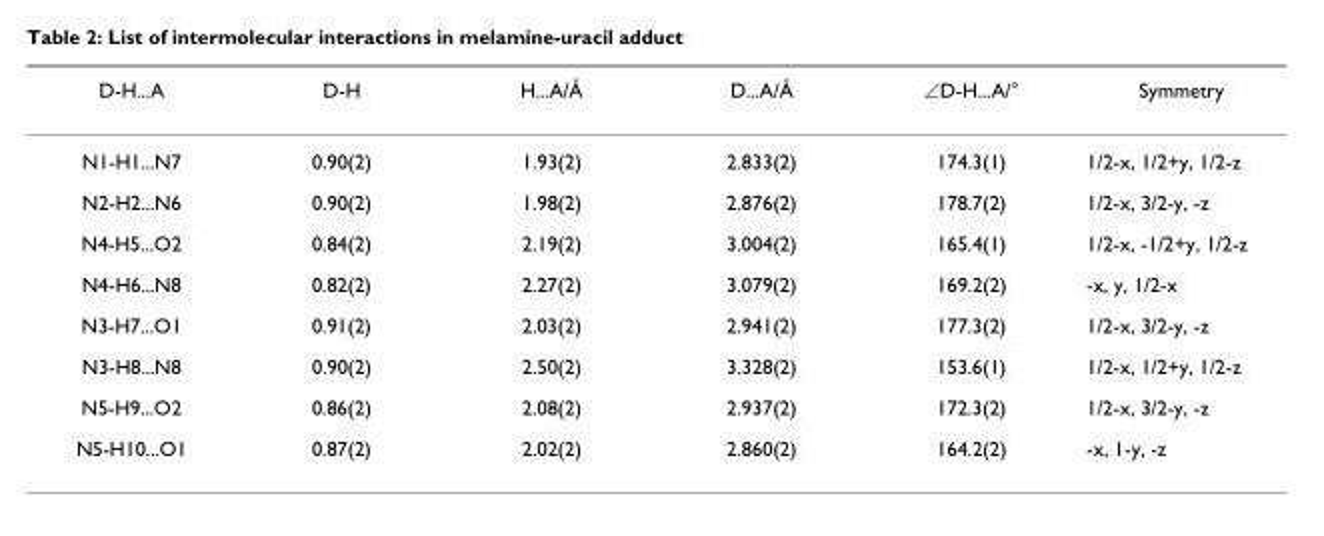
<table><thead><tr><td>D-H...A</td><td>D-H</td><td>H...A/Å</td><td>D...A/Å</td><td>∠D-H...A/°</td><td>Symmetry</td></tr></thead><tbody><tr><td>N1-H1...N7</td><td>0.90(2)</td><td>1.93(2)</td><td>2.833(2)</td><td>174.3(1)</td><td>1/2-x, 1/2+y, 1/2-z</td></tr><tr><td>N2-H2...N6</td><td>0.90(2)</td><td>1.98(2)</td><td>2.876(2)</td><td>178.7(2)</td><td>1/2-x, 3/2-y, -z</td></tr><tr><td>N4-H5...O2</td><td>0.84(2)</td><td>2.19(2)</td><td>3.004(2)</td><td>165.4(1)</td><td>1/2-x, -1/2+y, 1/2-z</td></tr><tr><td>N4-H6...N8</td><td>0.82(2)</td><td>2.27(2)</td><td>3.079(2)</td><td>169.2(2)</td><td>-x, y, 1/2-x</td></tr><tr><td>N3-H7...O1</td><td>0.91(2)</td><td>2.03(2)</td><td>2.941(2)</td><td>177.3(2)</td><td>1/2-x, 3/2-y, -z</td></tr><tr><td>N3-H8...N8</td><td>0.90(2)</td><td>2.50(2)</td><td>3.328(2)</td><td>153.6(1)</td><td>1/2-x, 1/2+y, 1/2-z</td></tr><tr><td>N5-H9...O2</td><td>0.86(2)</td><td>2.08(2)</td><td>2.937(2)</td><td>172.3(2)</td><td>1/2-x, 3/2-y, -z</td></tr><tr><td>N5-H10...O1</td><td>0.87(2)</td><td>2.02(2)</td><td>2.860(2)</td><td>164.2(2)</td><td>-x, 1-y, -z</td></tr></tbody></table>